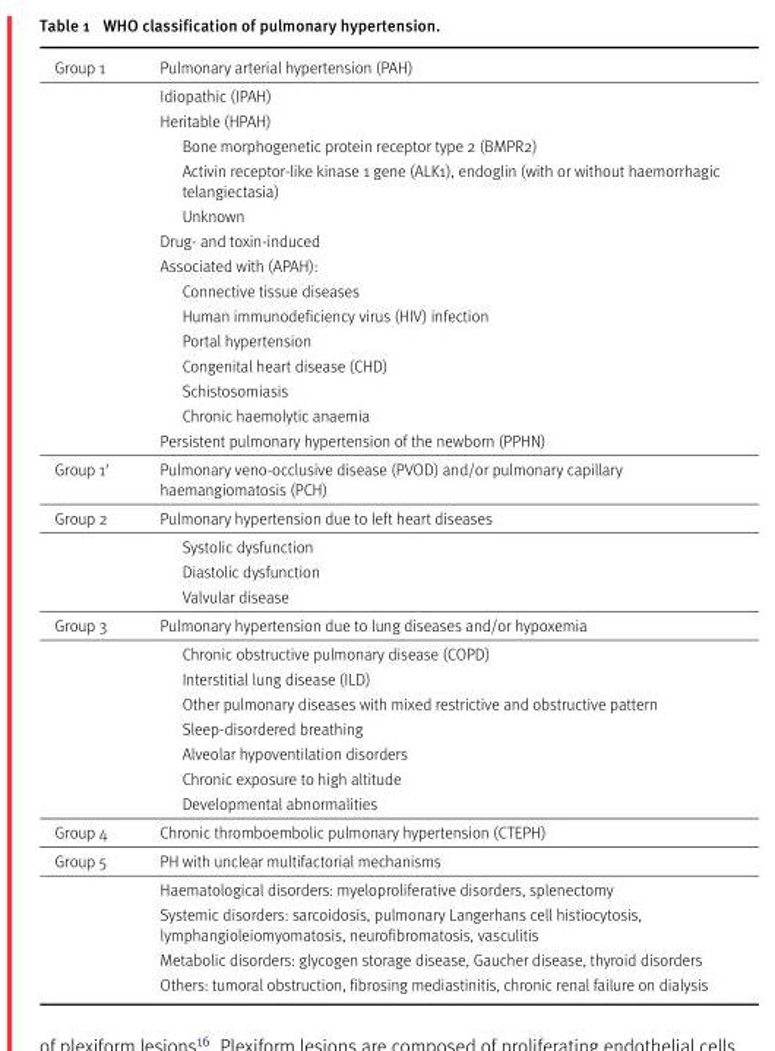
<table><tbody><tr><td rowspan="15">Group 1</td><td>Pulmonary arterial hypertension (PAH)</td></tr><tr><td>Idiopathic (IPAH)</td></tr><tr><td>Heritable (HPAH)</td></tr><tr><td>Bone morphogenetic protein receptor type 2 (BMPR2)</td></tr><tr><td>Activin receptor-like kinase 1 gene (ALK1), endoglin (with or without haemorrhagic telangiectasia)</td></tr><tr><td>Unknown</td></tr><tr><td>Drug- and toxin-induced</td></tr><tr><td>Associated with (APAH):</td></tr><tr><td>Connective tissue diseases</td></tr><tr><td>Human immunodeficiency virus (HIV) infection</td></tr><tr><td>Portal hypertension</td></tr><tr><td>Congenital heart disease (CHD)</td></tr><tr><td>Schistosomiasis</td></tr><tr><td>Chronic haemolytic anaemia</td></tr><tr><td>Persistent pulmonary hypertension of the newborn (PPHN)</td></tr><tr><td>Group 1′</td><td>Pulmonary veno-occlusive disease (PVOD) and/or pulmonary capillary haemangiomatosis (PCH)</td></tr><tr><td rowspan="4">Group 2</td><td>Pulmonary hypertension due to left heart diseases</td></tr><tr><td>Systolic dysfunction</td></tr><tr><td>Diastolic dysfunction</td></tr><tr><td>Valvular disease</td></tr><tr><td rowspan="8">Group 3</td><td>Pulmonary hypertension due to lung diseases and/or hypoxemia</td></tr><tr><td>Chronic obstructive pulmonary disease (COPD)</td></tr><tr><td>Interstitial lung disease (ILD)</td></tr><tr><td>Other pulmonary diseases with mixed restrictive and obstructive pattern</td></tr><tr><td>Sleep-disordered breathing</td></tr><tr><td>Alveolar hypoventilation disorders</td></tr><tr><td>Chronic exposure to high altitude</td></tr><tr><td>Developmental abnormalities</td></tr><tr><td>Group 4</td><td>Chronic thromboembolic pulmonary hypertension (CTEPH)</td></tr><tr><td rowspan="5">Group 5</td><td>PH with unclear multifactorial mechanisms</td></tr><tr><td>Haematological disorders: myeloproliferative disorders, splenectomy</td></tr><tr><td>Systemic disorders: sarcoidosis, pulmonary Langerhans cell histiocytosis, lymphangioleiomyomatosis, neurofibromatosis, vasculitis</td></tr><tr><td>Metabolic disorders: glycogen storage disease, Gaucher disease, thyroid disorders</td></tr><tr><td>Others: tumoral obstruction, fibrosing mediastinitis, chronic renal failure on dialysis</td></tr></tbody></table>